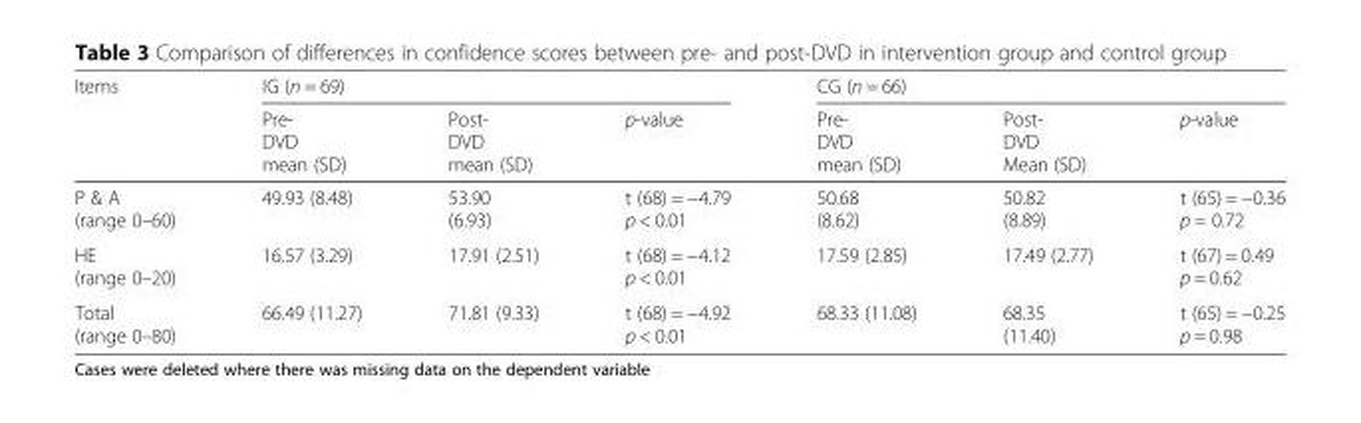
<table><thead><tr><td rowspan="2">Items</td><td colspan="3">IG (n = 69)</td><td colspan="3">CG (n = 66)</td></tr><tr><td>Pre- DVD mean (SD)</td><td>Post- DVD mean (SD)</td><td>p-value</td><td>Pre- DVD mean (SD)</td><td>Post- DVD Mean (SD)</td><td>p-value</td></tr></thead><tbody><tr><td>P &amp; A (range 0–60)</td><td>49.93 (8.48)</td><td>53.90 (6.93)</td><td>t (68) = −4.79 p &lt; 0.01</td><td>50.68 (8.62)</td><td>50.82 (8.89)</td><td>t (65) = −0.36 p = 0.72</td></tr><tr><td>HE (range 0–20)</td><td>16.57 (3.29)</td><td>17.91 (2.51)</td><td>t (68) = −4.12 p &lt; 0.01</td><td>17.59 (2.85)</td><td>17.49 (2.77)</td><td>t (67) = 0.49 p = 0.62</td></tr><tr><td>Total (range 0–80)</td><td>66.49 (11.27)</td><td>71.81 (9.33)</td><td>t (68) = −4.92 p &lt; 0.01</td><td>68.33 (11.08)</td><td>68.35 (11.40)</td><td>t (65) = −0.25 p = 0.98</td></tr></tbody></table>